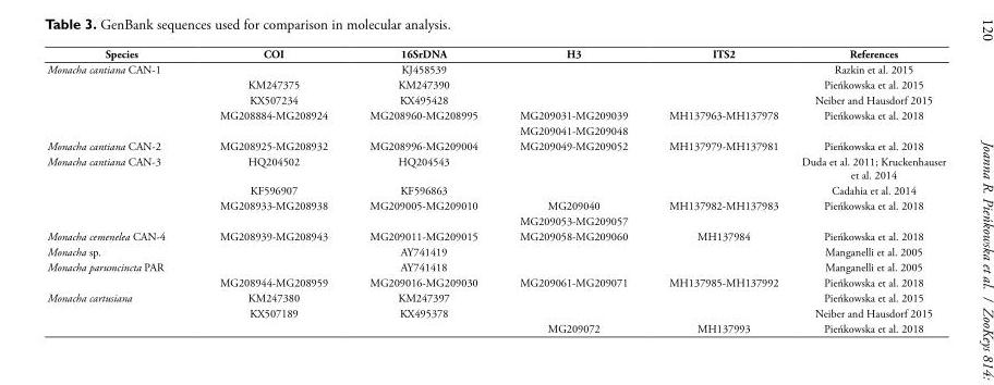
<table><thead><tr><td>Species</td><td>COI</td><td>16SrDNA</td><td>H3</td><td>ITS2</td><td>References</td></tr></thead><tbody><tr><td rowspan="5">Monacha cantiana CAN-1</td><td></td><td>KJ458539</td><td></td><td></td><td>Razkin et al. 2015</td></tr><tr><td>KM247375</td><td>KM247390</td><td></td><td></td><td>Pieńkowska et al. 2015</td></tr><tr><td>KX507234</td><td>KX495428</td><td></td><td></td><td>Neiber and Hausdorf 2015</td></tr><tr><td>MG208884-MG208924</td><td>MG208960-MG208995</td><td>MG209031-MG209039</td><td>MH137963-MH137978</td><td rowspan="2">Pieńkowska et al. 2018</td></tr><tr><td></td><td></td><td>MG209041-MG209048</td><td></td></tr><tr><td>Monacha cantiana CAN-2</td><td>MG208925-MG208932</td><td>MG208996-MG209004</td><td>MG209049-MG209052</td><td>MH137979-MH137981</td><td>Pieńkowska et al. 2018</td></tr><tr><td rowspan="4">Monacha cantiana CAN-3</td><td>HQ204502</td><td>HQ204543</td><td></td><td></td><td>Duda et al. 2011; Kruckenhauser et al. 2014</td></tr><tr><td>KF596907</td><td>KF596863</td><td></td><td></td><td>Cadahia et al. 2014</td></tr><tr><td>MG208933-MG208938</td><td>MG209005-MG209010</td><td>MG209040</td><td>MH137982-MH137983</td><td rowspan="2">Pieńkowska et al. 2018</td></tr><tr><td></td><td></td><td>MG209053-MG209057</td><td></td></tr><tr><td>Monacha cemenelea CAN-4</td><td>MG208939-MG208943</td><td>MG209011-MG209015</td><td>MG209058-MG209060</td><td>MH137984</td><td>Pieńkowska et al. 2018</td></tr><tr><td>Monacha sp.</td><td></td><td>AY741419</td><td></td><td></td><td>Manganelli et al. 2005</td></tr><tr><td rowspan="2">Monacha parumcincta PAR</td><td></td><td>AY741418</td><td></td><td></td><td>Manganelli et al. 2005</td></tr><tr><td>MG208944-MG208959</td><td>MG209016-MG209030</td><td>MG209061-MG209071</td><td>MH137985-MH137992</td><td>Pieńkowska et al. 2018</td></tr><tr><td rowspan="3">Monacha cartusiana</td><td>KM247380</td><td>KM247397</td><td></td><td></td><td>Pieńkowska et al. 2015</td></tr><tr><td>KX507189</td><td>KX495378</td><td></td><td></td><td>Neiber and Hausdorf 2015</td></tr><tr><td></td><td></td><td>MG209072</td><td>MH137993</td><td>Pieńkowska et al. 2018</td></tr></tbody></table>